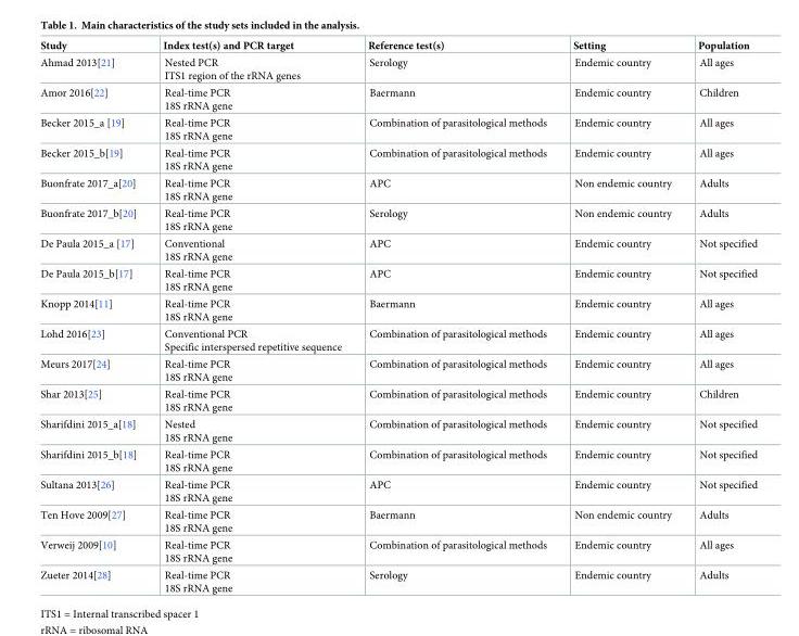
<table><thead><tr><td>Study</td><td>Index test(s) and PCR target</td><td>Reference test(s)</td><td>Setting</td><td>Population</td></tr></thead><tbody><tr><td>Ahmad 2013[21]</td><td>Nested PCR ITS1 region of the rRNA genes</td><td>Serology</td><td>Endemic country</td><td>All ages</td></tr><tr><td>Amor 2016[22]</td><td>Real-time PCR 18S rRNA gene</td><td>Baermann</td><td>Endemic country</td><td>Children</td></tr><tr><td>Becker 2015_a [19]</td><td>Real-time PCR 18S rRNA gene</td><td>Combination of parasitological methods</td><td>Endemic country</td><td>All ages</td></tr><tr><td>Becker 2015_b[19]</td><td>Real-time PCR 18S rRNA gene</td><td>Combination of parasitological methods</td><td>Endemic country</td><td>All ages</td></tr><tr><td>Buonfrate 2017_a[20]</td><td>Real-time PCR 18S rRNA gene</td><td>APC</td><td>Non endemic country</td><td>Adults</td></tr><tr><td>Buonfrate 2017_b[20]</td><td>Real-time PCR 18S rRNA gene</td><td>Serology</td><td>Non endemic country</td><td>Adults</td></tr><tr><td>De Paula 2015_a [17]</td><td>Conventional 18S rRNA gene</td><td>APC</td><td>Endemic country</td><td>Not specified</td></tr><tr><td>De Paula 2015_b[17]</td><td>Real-time PCR 18S rRNA gene</td><td>APC</td><td>Endemic country</td><td>Not specified</td></tr><tr><td>Knopp 2014[11]</td><td>Real-time PCR 18S rRNA gene</td><td>Baermann</td><td>Endemic country</td><td>All ages</td></tr><tr><td>Lohd 2016[23]</td><td>Conventional PCR Specific interspersed repetitive sequence</td><td>Combination of parasitological methods</td><td>Endemic country</td><td>All ages</td></tr><tr><td>Meurs 2017[24]</td><td>Real-time PCR 18S rRNA gene</td><td>Combination of parasitological methods</td><td>Endemic country</td><td>All ages</td></tr><tr><td>Shar 2013[25]</td><td>Real-time PCR 18S rRNA gene</td><td>Combination of parasitological methods</td><td>Endemic country</td><td>Children</td></tr><tr><td>Sharifdini 2015_a[18]</td><td>Nested 18S rRNA gene</td><td>Combination of parasitological methods</td><td>Endemic country</td><td>Not specified</td></tr><tr><td>Sharifdini 2015_b[18]</td><td>Real-time PCR 18S rRNA gene</td><td>Combination of parasitological methods</td><td>Endemic country</td><td>Not specified</td></tr><tr><td>Sultana 2013[26]</td><td>Real-time PCR 18S rRNA gene</td><td>APC</td><td>Endemic country</td><td>Not specified</td></tr><tr><td>Ten Hove 2009[27]</td><td>Real-time PCR 18S rRNA gene</td><td>Baermann</td><td>Non endemic country</td><td>Adults</td></tr><tr><td>Verweij 2009[10]</td><td>Real-time PCR 18S rRNA gene</td><td>Combination of parasitological methods</td><td>Endemic country</td><td>All ages</td></tr><tr><td>Zueter 2014[28]</td><td>Real-time PCR 18S rRNA gene</td><td>Serology</td><td>Endemic country</td><td>Adults</td></tr></tbody></table>